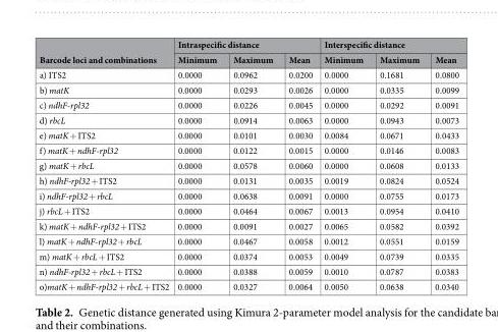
<table><thead><tr><td rowspan="2">Barcode loci and combinations</td><td colspan="3">Intraspecific distance</td><td colspan="3">Interspecific distance</td></tr><tr><td>Minimum</td><td>Maximum</td><td>Mean</td><td>Minimum</td><td>Maximum</td><td>Mean</td></tr></thead><tbody><tr><td>a) ITS2</td><td>0.0000</td><td>0.0962</td><td>0.0200</td><td>0.0000</td><td>0.1681</td><td>0.0800</td></tr><tr><td>b) matK</td><td>0.0000</td><td>0.0293</td><td>0.0026</td><td>0.0000</td><td>0.0335</td><td>0.0099</td></tr><tr><td>c) ndhF-rpl32</td><td>0.0000</td><td>0.0226</td><td>0.0045</td><td>0.0000</td><td>0.0292</td><td>0.0091</td></tr><tr><td>d) rbcL</td><td>0.0000</td><td>0.0914</td><td>0.0063</td><td>0.0000</td><td>0.0943</td><td>0.0073</td></tr><tr><td>e) matK + ITS2</td><td>0.0000</td><td>0.0101</td><td>0.0030</td><td>0.0084</td><td>0.0671</td><td>0.0433</td></tr><tr><td>f) matK + ndhF-rpl32</td><td>0.0000</td><td>0.0122</td><td>0.0015</td><td>0.0000</td><td>0.0146</td><td>0.0083</td></tr><tr><td>g) matK + rbcL</td><td>0.0000</td><td>0.0578</td><td>0.0060</td><td>0.0000</td><td>0.0608</td><td>0.0133</td></tr><tr><td>h) ndhF-rpl32 + ITS2</td><td>0.0000</td><td>0.0131</td><td>0.0035</td><td>0.0019</td><td>0.0824</td><td>0.0524</td></tr><tr><td>i) ndhF-rpl32 + rbcL</td><td>0.0000</td><td>0.0638</td><td>0.0091</td><td>0.0000</td><td>0.0755</td><td>0.0173</td></tr><tr><td>j) rbcL + ITS2</td><td>0.0000</td><td>0.0464</td><td>0.0067</td><td>0.0013</td><td>0.0954</td><td>0.0410</td></tr><tr><td>k) matK + ndhF-rpl32 + ITS2</td><td>0.0000</td><td>0.0091</td><td>0.0027</td><td>0.0065</td><td>0.0582</td><td>0.0392</td></tr><tr><td>l) matK + ndhF-rpl32 + rbcL</td><td>0.0000</td><td>0.0467</td><td>0.0058</td><td>0.0012</td><td>0.0551</td><td>0.0159</td></tr><tr><td>m) matK + rbcL + ITS2</td><td>0.0000</td><td>0.0374</td><td>0.0053</td><td>0.0049</td><td>0.0739</td><td>0.0335</td></tr><tr><td>n) ndhF-rpl32 + rbcL + ITS2</td><td>0.0000</td><td>0.0388</td><td>0.0059</td><td>0.0010</td><td>0.0787</td><td>0.0383</td></tr><tr><td>o)matK + ndhF-rpl32 + rbcL + ITS2</td><td>0.0000</td><td>0.0327</td><td>0.0064</td><td>0.0050</td><td>0.0638</td><td>0.0340</td></tr></tbody></table>